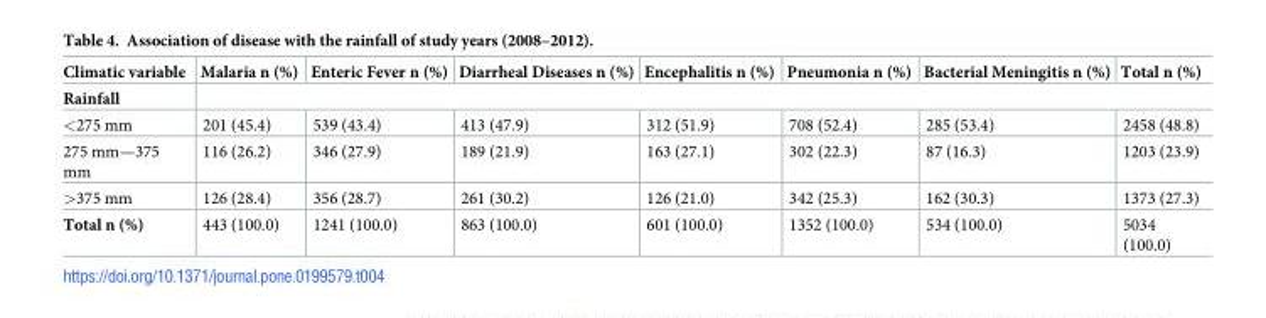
<table><thead><tr><td rowspan="2">Climatic variable Rainfall</td><td rowspan="2">Malaria n (%)</td><td rowspan="2">Enteric Fever n (%)</td><td rowspan="2">Diarrheal Diseases n (%)</td><td rowspan="2">Encephalitis n (%)</td><td rowspan="2">Pneumonia n (%)</td><td rowspan="2">Bacterial Meningitis n (%)</td><td rowspan="2">Total n (%)</td></tr><tr></tr></thead><tbody><tr><td>&lt;275 mm</td><td>201 (45.4)</td><td>539 (43.4)</td><td>413 (47.9)</td><td>312 (51.9)</td><td>708 (52.4)</td><td>285 (53.4)</td><td>2458 (48.8)</td></tr><tr><td>275 mm—375 mm</td><td>116 (26.2)</td><td>346 (27.9)</td><td>189 (21.9)</td><td>163 (27.1)</td><td>302 (22.3)</td><td>87 (16.3)</td><td>1203 (23.9)</td></tr><tr><td>&gt;375 mm</td><td>126 (28.4)</td><td>356 (28.7)</td><td>261 (30.2)</td><td>126 (21.0)</td><td>342 (25.3)</td><td>162 (30.3)</td><td>1373 (27.3)</td></tr><tr><td>Total n (%)</td><td>443 (100.0)</td><td>1241 (100.0)</td><td>863 (100.0)</td><td>601 (100.0)</td><td>1352 (100.0)</td><td>534 (100.0)</td><td>5034 (100.0)</td></tr></tbody></table>